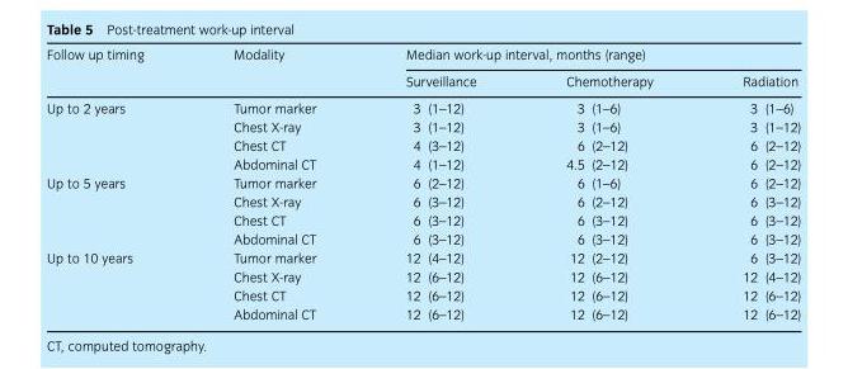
<table><thead><tr><td rowspan="2">Follow up timing</td><td rowspan="2">Modality</td><td colspan="3">Median work-up interval, months (range)</td></tr><tr><td>Surveillance</td><td>Chemotherapy</td><td>Radiation</td></tr></thead><tbody><tr><td rowspan="4">Up to 2 years</td><td>Tumor marker</td><td>3 (1–12)</td><td>3 (1–6)</td><td>3 (1–6)</td></tr><tr><td>Chest X-ray</td><td>3 (1–12)</td><td>3 (1–6)</td><td>3 (1–12)</td></tr><tr><td>Chest CT</td><td>4 (3–12)</td><td>6 (2–12)</td><td>6 (2–12)</td></tr><tr><td>Abdominal CT</td><td>4 (1–12)</td><td>4.5 (2–12)</td><td>6 (2–12)</td></tr><tr><td rowspan="4">Up to 5 years</td><td>Tumor marker</td><td>6 (2–12)</td><td>6 (1–6)</td><td>6 (2–12)</td></tr><tr><td>Chest X-ray</td><td>6 (3–12)</td><td>6 (2–12)</td><td>6 (3–12)</td></tr><tr><td>Chest CT</td><td>6 (3–12)</td><td>6 (3–12)</td><td>6 (3–12)</td></tr><tr><td>Abdominal CT</td><td>6 (3–12)</td><td>6 (3–12)</td><td>6 (3–12)</td></tr><tr><td rowspan="4">Up to 10 years</td><td>Tumor marker</td><td>12 (4–12)</td><td>12 (2–12)</td><td>6 (3–12)</td></tr><tr><td>Chest X-ray</td><td>12 (6–12)</td><td>12 (6–12)</td><td>12 (4–12)</td></tr><tr><td>Chest CT</td><td>12 (6–12)</td><td>12 (6–12)</td><td>12 (6–12)</td></tr><tr><td>Abdominal CT</td><td>12 (6–12)</td><td>12 (6–12)</td><td>12 (6–12)</td></tr></tbody></table>